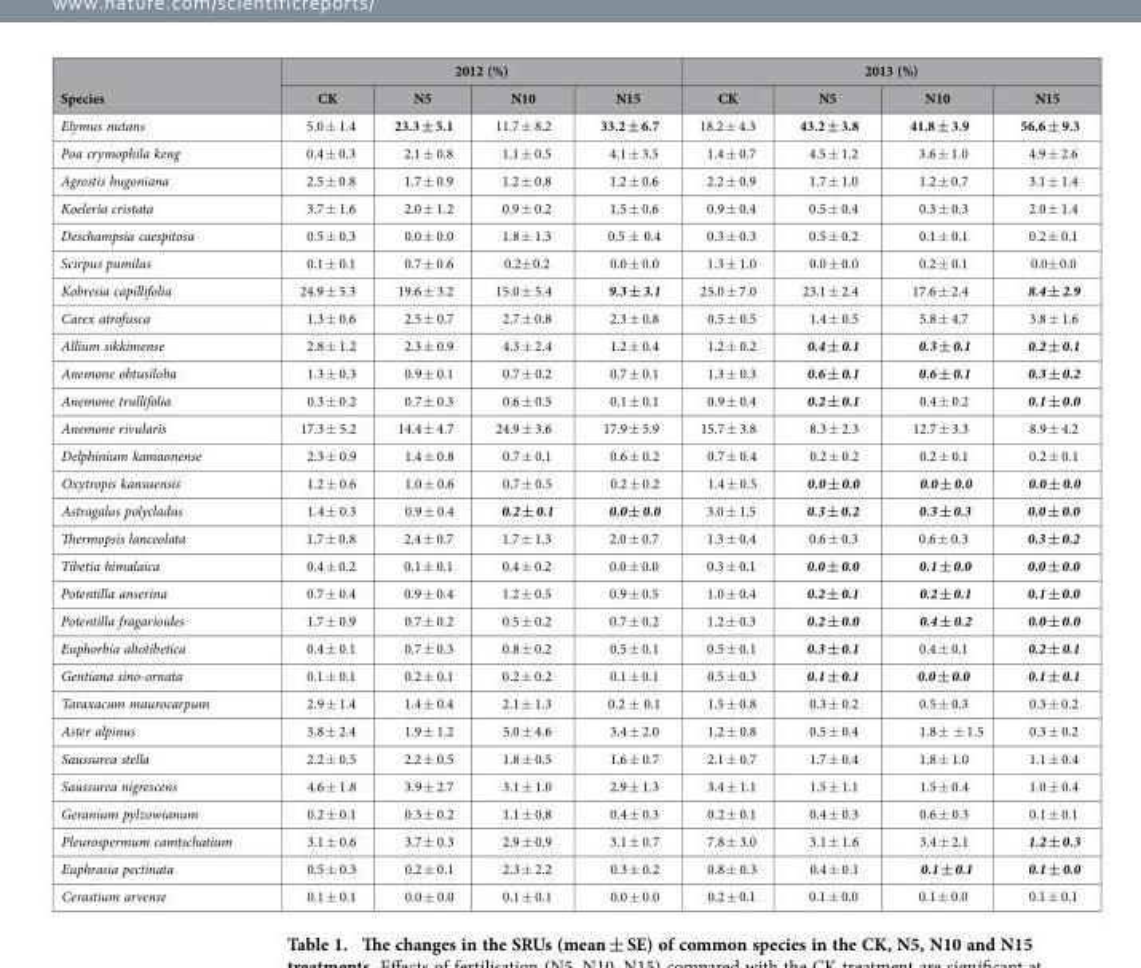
<table><thead><tr><td rowspan="2">Species</td><td colspan="4">2012 (%)</td><td colspan="4">2013 (%)</td></tr><tr><td>CK</td><td>N5</td><td>N10</td><td>N15</td><td>CK</td><td>N5</td><td>N10</td><td>N15</td></tr></thead><tbody><tr><td>Elymus nutans</td><td>5.0 ± 1.4</td><td>23.3 ± 5.1</td><td>11.7 ± 8.2</td><td>33.2 ± 6.7</td><td>18.2 ± 4.3</td><td>43.2 ± 3.8</td><td>41.8 ± 3.9</td><td>56.6 ± 9.3</td></tr><tr><td>Poa crymophila keng</td><td>0.4 ± 0.3</td><td>2.1 ± 0.8</td><td>1.1 ± 0.5</td><td>4.1 ± 3.5</td><td>1.4 ± 0.7</td><td>4.5 ± 1.2</td><td>3.6 ± 1.0</td><td>4.9 ± 2.6</td></tr><tr><td>Agrostis hugoniana</td><td>2.5 ± 0.8</td><td>1.7 ± 0.9</td><td>1.2 ± 0.8</td><td>1.2 ± 0.6</td><td>2.2 ± 0.9</td><td>1.7 ± 1.0</td><td>1.2 ± 0.7</td><td>3.1 ± 1.4</td></tr><tr><td>Koeleria cristata</td><td>3.7 ± 1.6</td><td>2.0 ± 1.2</td><td>0.9 ± 0.2</td><td>1.5 ± 0.6</td><td>0.9 ± 0.4</td><td>0.5 ± 0.4</td><td>0.3 ± 0.3</td><td>2.0 ± 1.4</td></tr><tr><td>Deschampsia caespitosa</td><td>0.5 ± 0.3</td><td>0.0 ± 0.0</td><td>1.8 ± 1.3</td><td>0.5 ± 0.4</td><td>0.3 ± 0.3</td><td>0.5 ± 0.2</td><td>0.1 ± 0.1</td><td>0.2 ± 0.1</td></tr><tr><td>Scirpus pumilus</td><td>0.1 ± 0.1</td><td>0.7 ± 0.6</td><td>0.2± 0.2</td><td>0.0 ± 0.0</td><td>1.3 ± 1.0</td><td>0.0 ± 0.0</td><td>0.2 ± 0.1</td><td>0.0± 0.0</td></tr><tr><td>Kobresia capillifolia</td><td>24.9 ± 5.3</td><td>19.6 ± 3.2</td><td>15.0 ± 5.4</td><td>9.3 ± 3.1</td><td>25.0 ± 7.0</td><td>23.1 ± 2.4</td><td>17.6 ± 2.4</td><td>8.4 ± 2.9</td></tr><tr><td>Carex atrofusca</td><td>1.3 ± 0.6</td><td>2.5 ± 0.7</td><td>2.7 ± 0.8</td><td>2.3 ± 0.8</td><td>0.5 ± 0.5</td><td>1.4 ± 0.5</td><td>5.8 ± 4.7</td><td>3.8 ± 1.6</td></tr><tr><td>Allium sikkimense</td><td>2.8 ± 1.2</td><td>2.3 ± 0.9</td><td>4.3 ± 2.4</td><td>1.2 ± 0.4</td><td>1.2 ± 0.2</td><td>0.4 ± 0.1</td><td>0.3 ± 0.1</td><td>0.2 ± 0.1</td></tr><tr><td>Anemone obtusiloba</td><td>1.3 ± 0.3</td><td>0.9 ± 0.1</td><td>0.7 ± 0.2</td><td>0.7 ± 0.1</td><td>1.3 ± 0.3</td><td>0.6 ± 0.1</td><td>0.6 ± 0.1</td><td>0.3 ± 0.2</td></tr><tr><td>Anemone trullifolia</td><td>0.3 ± 0.2</td><td>0.7 ± 0.3</td><td>0.6 ± 0.5</td><td>0.1 ± 0.1</td><td>0.9 ± 0.4</td><td>0.2 ± 0.1</td><td>0.4 ± 0.2</td><td>0.1 ± 0.0</td></tr><tr><td>Anemone rivularis</td><td>17.3 ± 5.2</td><td>14.4 ± 4.7</td><td>24.9 ± 3.6</td><td>17.9 ± 5.9</td><td>15.7 ± 3.8</td><td>8.3 ± 2.3</td><td>12.7 ± 3.3</td><td>8.9 ± 4.2</td></tr><tr><td>Delphinium kamaonense</td><td>2.3 ± 0.9</td><td>1.4 ± 0.8</td><td>0.7 ± 0.1</td><td>0.6 ± 0.2</td><td>0.7 ± 0.4</td><td>0.2 ± 0.2</td><td>0.2 ± 0.1</td><td>0.2 ± 0.1</td></tr><tr><td>Oxytropis kansuensis</td><td>1.2 ± 0.6</td><td>1.0 ± 0.6</td><td>0.7 ± 0.5</td><td>0.2 ± 0.2</td><td>1.4 ± 0.5</td><td>0.0 ± 0.0</td><td>0.0 ± 0.0</td><td>0.0 ± 0.0</td></tr><tr><td>Astragalus polycladus</td><td>1.4 ± 0.3</td><td>0.9 ± 0.4</td><td>0.2 ± 0.1</td><td>0.0 ± 0.0</td><td>3.0 ± 1.5</td><td>0.3 ± 0.2</td><td>0.3 ± 0.3</td><td>0.0 ± 0.0</td></tr><tr><td>Thermopsis lanceolata</td><td>1.7 ± 0.8</td><td>2.4 ± 0.7</td><td>1.7 ± 1.3</td><td>2.0 ± 0.7</td><td>1.3 ± 0.4</td><td>0.6 ± 0.3</td><td>0.6 ± 0.3</td><td>0.3 ± 0.2</td></tr><tr><td>Tibetia himalaica</td><td>0.4 ± 0.2</td><td>0.1 ± 0.1</td><td>0.4 ± 0.2</td><td>0.0 ± 0.0</td><td>0.3 ± 0.1</td><td>0.0 ± 0.0</td><td>0.1 ± 0.0</td><td>0.0 ± 0.0</td></tr><tr><td>Potentilla anserina</td><td>0.7 ± 0.4</td><td>0.9 ± 0.4</td><td>1.2 ± 0.5</td><td>0.9 ± 0.5</td><td>1.0 ± 0.4</td><td>0.2 ± 0.1</td><td>0.2 ± 0.1</td><td>0.1 ± 0.0</td></tr><tr><td>Potentilla fragarioides</td><td>1.7 ± 0.9</td><td>0.7 ± 0.2</td><td>0.5 ± 0.2</td><td>0.7 ± 0.2</td><td>1.2 ± 0.3</td><td>0.2 ± 0.0</td><td>0.4 ± 0.2</td><td>0.0 ± 0.0</td></tr><tr><td>Euphorbia altotibetica</td><td>0.4 ± 0.1</td><td>0.7 ± 0.3</td><td>0.8 ± 0.2</td><td>0.5 ± 0.1</td><td>0.5 ± 0.1</td><td>0.3 ± 0.1</td><td>0.4 ± 0.1</td><td>0.2 ± 0.1</td></tr><tr><td>Gentiana sino-ornata</td><td>0.1 ± 0.1</td><td>0.2 ± 0.1</td><td>0.2 ± 0.2</td><td>0.1 ± 0.1</td><td>0.5 ± 0.3</td><td>0.1 ± 0.1</td><td>0.0 ± 0.0</td><td>0.1 ± 0.1</td></tr><tr><td>Taraxacum maurocarpum</td><td>2.9 ± 1.4</td><td>1.4 ± 0.4</td><td>2.1 ± 1.3</td><td>0.2 ± 0.1</td><td>1.5 ± 0.8</td><td>0.3 ± 0.2</td><td>0.5 ± 0.3</td><td>0.3 ± 0.2</td></tr><tr><td>Aster alpinus</td><td>3.8 ± 2.4</td><td>1.9 ± 1.2</td><td>5.0 ± 4.6</td><td>3.4 ± 2.0</td><td>1.2 ± 0.8</td><td>0.5 ± 0.4</td><td>1.8 ± ± 1.5</td><td>0.3 ± 0.2</td></tr><tr><td>Saussurea stella</td><td>2.2 ± 0.5</td><td>2.2 ± 0.5</td><td>1.8 ± 0.5</td><td>1.6 ± 0.7</td><td>2.1 ± 0.7</td><td>1.7 ± 0.4</td><td>1.8 ± 1.0</td><td>1.1 ± 0.4</td></tr><tr><td>Saussurea nigrescens</td><td>4.6 ± 1.8</td><td>3.9 ± 2.7</td><td>3.1 ± 1.0</td><td>2.9 ± 1.3</td><td>3.4 ± 1.1</td><td>1.5 ± 1.1</td><td>1.5 ± 0.4</td><td>1.0 ± 0.4</td></tr><tr><td>Geranium pylzowianum</td><td>0.2 ± 0.1</td><td>0.3 ± 0.2</td><td>1.1 ± 0.8</td><td>0.4 ± 0.3</td><td>0.2 ± 0.1</td><td>0.4 ± 0.3</td><td>0.6 ± 0.3</td><td>0.1 ± 0.1</td></tr><tr><td>Pleurospermum camtschatium</td><td>3.1 ± 0.6</td><td>3.7 ± 0.3</td><td>2.9 ± 0.9</td><td>3.1 ± 0.7</td><td>7.8 ± 3.0</td><td>3.1 ± 1.6</td><td>3.4 ± 2.1</td><td>1.2 ± 0.3</td></tr><tr><td>Euphrasia pectinata</td><td>0.5 ± 0.3</td><td>0.2 ± 0.1</td><td>2.3 ± 2.2</td><td>0.3 ± 0.2</td><td>0.8 ± 0.3</td><td>0.4 ± 0.1</td><td>0.1 ± 0.1</td><td>0.1 ± 0.0</td></tr><tr><td>Cerastium arvense</td><td>0.1 ± 0.1</td><td>0.0 ± 0.0</td><td>0.1 ± 0.1</td><td>0.0 ± 0.0</td><td>0.2 ± 0.1</td><td>0.1 ± 0.0</td><td>0.1 ± 0.0</td><td>0.1 ± 0.1</td></tr></tbody></table>